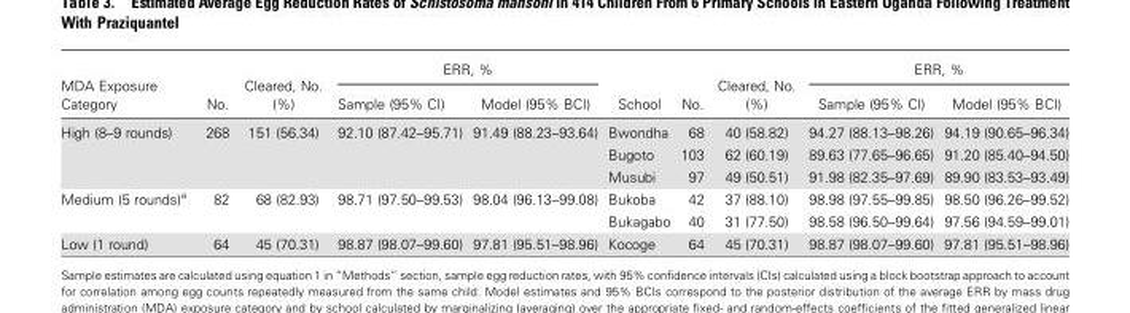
<table><thead><tr><td rowspan="2">MDA Exposure Category</td><td rowspan="2">No.</td><td rowspan="2">Cleared, No. (%)</td><td colspan="2">ERR, %</td><td rowspan="2">School</td><td rowspan="2">No.</td><td rowspan="2">Cleared, No. (%)</td><td colspan="2">ERR, %</td></tr><tr><td>Sample (95% CI)</td><td>Model (95% BCI)</td><td>Sample (95% CI)</td><td>Model (95% BCI)</td></tr></thead><tbody><tr><td rowspan="3">High (8–9 rounds)</td><td rowspan="3">268</td><td rowspan="3">151 (56.34)</td><td rowspan="3">92.10 (87.42–95.71)</td><td rowspan="3">91.49 (88.23–93.64)</td><td>Bwondha</td><td>68</td><td>40 (58.82)</td><td>94.27 (88.13–98.26)</td><td>94.19 (90.65–96.34)</td></tr><tr><td>Bugoto</td><td>103</td><td>62 (60.19)</td><td>89.63 (77.65–96.65)</td><td>91.20 (85.40–94.50)</td></tr><tr><td>Musubi</td><td>97</td><td>49 (50.51)</td><td>91.98 (82.35–97.69)</td><td>89.90 (83.53–93.49)</td></tr><tr><td rowspan="2">Medium (5 rounds)<sup>a</sup></td><td rowspan="2">82</td><td rowspan="2">68 (82.93)</td><td rowspan="2">98.71 (97.50–99.53)</td><td rowspan="2">98.04 (96.13–99.08)</td><td>Bukoba</td><td>42</td><td>37 (88.10)</td><td>98.98 (97.55–99.85)</td><td>98.50 (96.26–99.52)</td></tr><tr><td>Bukagabo</td><td>40</td><td>31 (77.50)</td><td>98.58 (96.50–99.64)</td><td>97.56 (94.59–99.01)</td></tr><tr><td>Low (1 round)</td><td>64</td><td>45 (70.31)</td><td>98.87 (98.07–99.60)</td><td>97.81 (95.51–98.96)</td><td>Kocoge</td><td>64</td><td>45 (70.31)</td><td>98.87 (98.07–99.60)</td><td>97.81 (95.51–98.96)</td></tr></tbody></table>